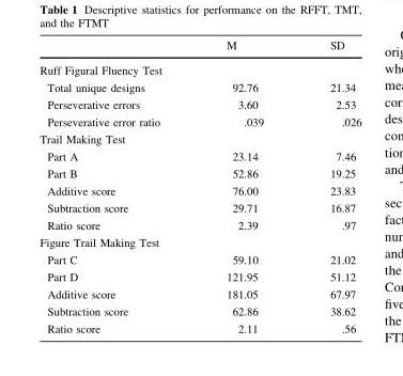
<table><thead><tr><td></td><td>M</td><td>SD</td></tr></thead><tbody><tr><td colspan="3">Ruff Figural Fluency Test</td></tr><tr><td>Total unique designs</td><td>92.76</td><td>21.34</td></tr><tr><td>Perseverative errors</td><td>3.60</td><td>2.53</td></tr><tr><td>Perseverative error ratio</td><td>.039</td><td>.026</td></tr><tr><td colspan="3">Trail Making Test</td></tr><tr><td>Part A</td><td>23.14</td><td>7.46</td></tr><tr><td>Part B</td><td>52.86</td><td>19.25</td></tr><tr><td>Additive score</td><td>76.00</td><td>23.83</td></tr><tr><td>Subtraction score</td><td>29.71</td><td>16.87</td></tr><tr><td>Ratio score</td><td>2.39</td><td>.97</td></tr><tr><td colspan="3">Figure Trail Making Test</td></tr><tr><td>Part C</td><td>59.10</td><td>21.02</td></tr><tr><td>Part D</td><td>121.95</td><td>51.12</td></tr><tr><td>Additive score</td><td>181.05</td><td>67.97</td></tr><tr><td>Subtraction score</td><td>62.86</td><td>38.62</td></tr><tr><td>Ratio score</td><td>2.11</td><td>.56</td></tr></tbody></table>